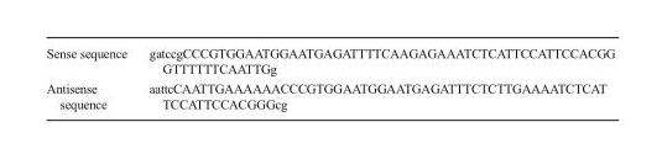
<table><tbody><tr><td>Sense sequence</td><td>gatccgCCCGTGGAATGGAATGAGATTTTCAAGAGAAATCTCATTCCATTCCACGG GTTTTTTCAATTGg</td></tr><tr><td>Antisense sequence</td><td>aattcCAATTGAAAAAACCCGTGGAATGGAATGAGATTTCTCTTGAAAATCTCAT TCCATTCCACGGGcg</td></tr></tbody></table>